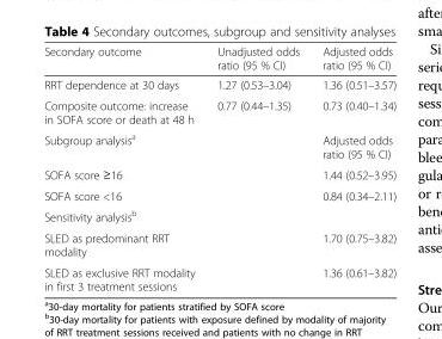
<table><thead><tr><td>Secondary outcome</td><td>Unadjusted odds ratio (95 % CI)</td><td>Adjusted odds ratio (95 % CI)</td></tr></thead><tbody><tr><td>RRT dependence at 30 days</td><td>1.27 (0.53–3.04)</td><td>1.36 (0.51–3.57)</td></tr><tr><td>Composite outcome: increase in SOFA score or death at 48 h</td><td>0.77 (0.44–1.35)</td><td>0.73 (0.40–1.34)</td></tr><tr><td colspan="2">Subgroup analysis<sup>a</sup></td><td>Adjusted odds ratio (95 % CI)</td></tr><tr><td colspan="2">SOFA score ≥16</td><td>1.44 (0.52–3.95)</td></tr><tr><td colspan="2">SOFA score &lt;16</td><td>0.84 (0.34–2.11)</td></tr><tr><td colspan="3">Sensitivity analysis<sup>b</sup></td></tr><tr><td colspan="2">SLED as predominant RRT modality</td><td>1.70 (0.75–3.82)</td></tr><tr><td colspan="2">SLED as exclusive RRT modality in first 3 treatment sessions</td><td>1.36 (0.61–3.82)</td></tr></tbody></table>